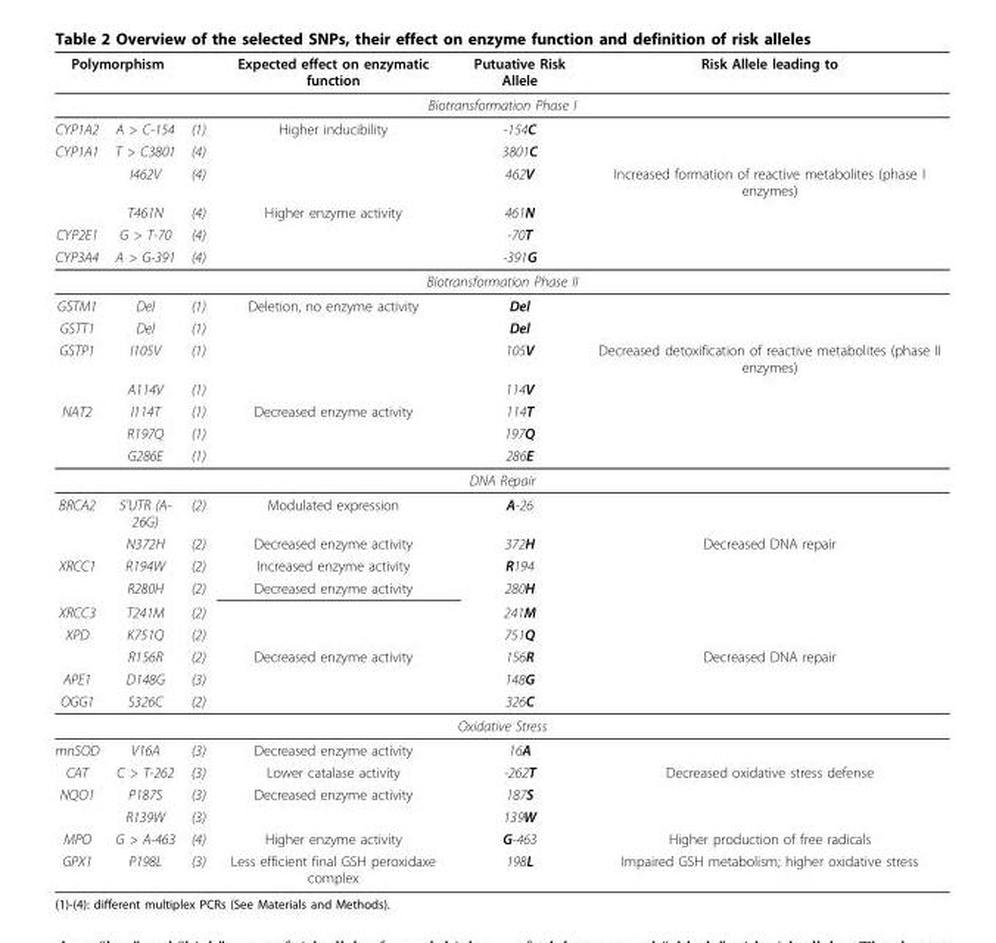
<table><thead><tr><td colspan="2">Polymorphism</td><td></td><td>Expected effect on enzymatic function</td><td>Putuative Risk Allele</td><td>Risk Allele leading to</td></tr><tr><td colspan="6">Biotransformation Phase I</td></tr><tr><td>CYP1A2</td><td>A &gt; C-154</td><td>(1)</td><td>Higher inducibility</td><td>-154C</td><td></td></tr></thead><tbody><tr><td rowspan="3">CYP1A1</td><td>T &gt; C3801</td><td>(4)</td><td></td><td>3801C</td><td></td></tr><tr><td>I462V</td><td>(4)</td><td></td><td>462V</td><td>Increased formation of reactive metabolites (phase I enzymes)</td></tr><tr><td>T461N</td><td>(4)</td><td>Higher enzyme activity</td><td>461N</td><td></td></tr><tr><td>CYP2E1</td><td>G &gt; T-70</td><td>(4)</td><td></td><td>-70T</td><td></td></tr><tr><td>CYP3A4</td><td>A &gt; G-391</td><td>(4)</td><td></td><td>-391G</td><td></td></tr><tr><td colspan="6">Biotransformation Phase II</td></tr><tr><td>GSTM1</td><td>Del</td><td>(1)</td><td>Deletion, no enzyme activity</td><td>Del</td><td></td></tr><tr><td>GSTT1</td><td>Del</td><td>(1)</td><td></td><td>Del</td><td></td></tr><tr><td rowspan="2">GSTP1</td><td>I105V</td><td>(1)</td><td></td><td>105V</td><td>Decreased detoxification of reactive metabolites (phase II enzymes)</td></tr><tr><td>A114V</td><td>(1)</td><td></td><td>114V</td><td></td></tr><tr><td rowspan="3">NAT2</td><td>I114T</td><td>(1)</td><td>Decreased enzyme activity</td><td>114T</td><td></td></tr><tr><td>R197Q</td><td>(1)</td><td></td><td>197Q</td><td></td></tr><tr><td>G286E</td><td>(1)</td><td></td><td>286E</td><td></td></tr><tr><td colspan="6">DNA Repair</td></tr><tr><td rowspan="2">BRCA2</td><td>5’UTR (A- 26G)</td><td>(2)</td><td>Modulated expression</td><td>A-26</td><td></td></tr><tr><td>N372H</td><td>(2)</td><td>Decreased enzyme activity</td><td>372H</td><td>Decreased DNA repair</td></tr><tr><td rowspan="2">XRCC1</td><td>R194W</td><td>(2)</td><td>Increased enzyme activity</td><td>R194</td><td></td></tr><tr><td>R280H</td><td>(2)</td><td>Decreased enzyme activity</td><td>280H</td><td></td></tr><tr><td>XRCC3</td><td>T241M</td><td>(2)</td><td></td><td>241M</td><td></td></tr><tr><td rowspan="2">XPD</td><td>K751Q</td><td>(2)</td><td></td><td>751Q</td><td></td></tr><tr><td>R156R</td><td>(2)</td><td>Decreased enzyme activity</td><td>156R</td><td>Decreased DNA repair</td></tr><tr><td>APE1</td><td>D148G</td><td>(3)</td><td></td><td>148G</td><td></td></tr><tr><td>OGG1</td><td>S326C</td><td>(2)</td><td></td><td>326C</td><td></td></tr><tr><td colspan="6">Oxidative Stress</td></tr><tr><td>mnSOD</td><td>V16A</td><td>(3)</td><td>Decreased enzyme activity</td><td>16A</td><td></td></tr><tr><td>CAT</td><td>C &gt; T-262</td><td>(3)</td><td>Lower catalase activity</td><td>-262T</td><td>Decreased oxidative stress defense</td></tr><tr><td rowspan="2">NQO1</td><td>P187S</td><td>(3)</td><td>Decreased enzyme activity</td><td>187S</td><td></td></tr><tr><td>R139W</td><td>(3)</td><td></td><td>139W</td><td></td></tr><tr><td>MPO</td><td>G &gt; A-463</td><td>(4)</td><td>Higher enzyme activity</td><td>G-463</td><td>Higher production of free radicals</td></tr><tr><td>GPX1</td><td>P198L</td><td>(3)</td><td>Less efficient final GSH peroxidaxe complex</td><td>198L</td><td>Impaired GSH metabolism; higher oxidative stress</td></tr></tbody></table>